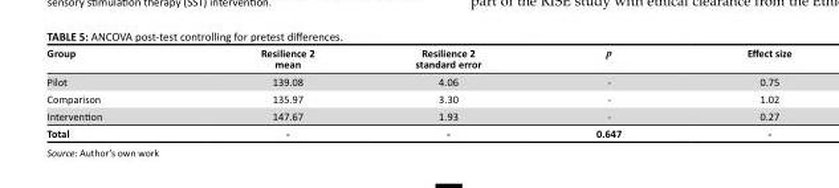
<table><thead><tr><td>Group</td><td>Resilience 2 mean</td><td>Resilience 2 standard error</td><td>p</td><td>Effect size</td></tr></thead><tbody><tr><td>Pilot</td><td>139.08</td><td>4.06</td><td>-</td><td>0.75</td></tr><tr><td>Comparison</td><td>135.97</td><td>3.30</td><td>-</td><td>1.02</td></tr><tr><td>Intervention</td><td>147.67</td><td>1.93</td><td>-</td><td>0.27</td></tr><tr><td>Total</td><td>-</td><td>-</td><td>0.647</td><td>-</td></tr></tbody></table>